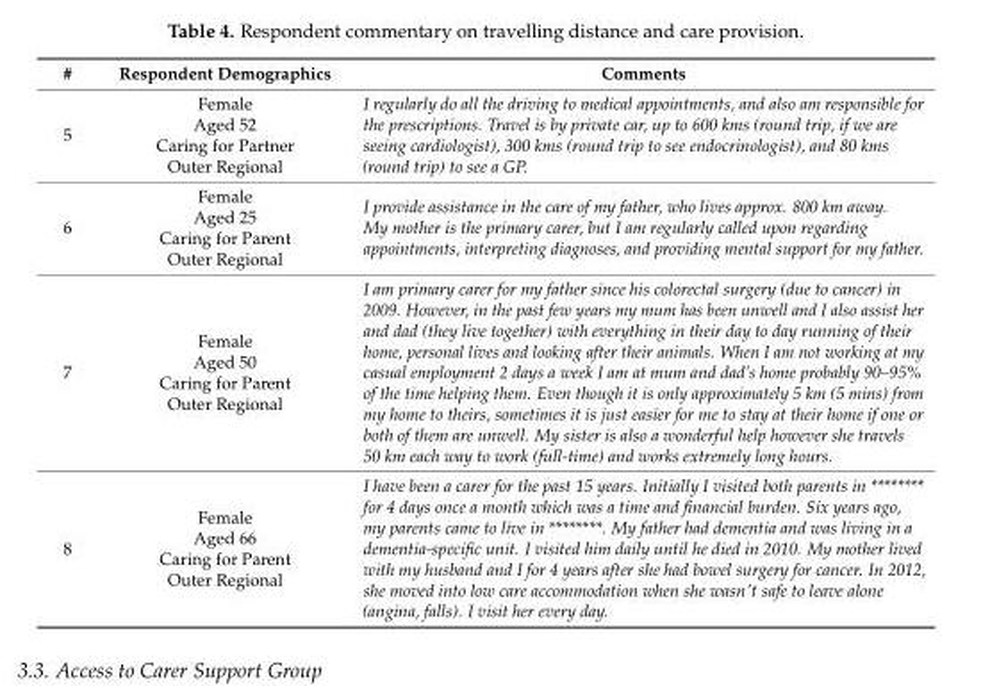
<table><thead><tr><td>#</td><td>Respondent Demographics</td><td>Comments</td></tr></thead><tbody><tr><td>5</td><td>Female Aged 52 Caring for Partner Outer Regional</td><td>I regularly do all the driving to medical appointments, and also am responsible for the prescriptions. Travel is by private car, up to 600 kms (round trip, if we are seeing cardiologist), 300 kms (round trip to see endocrinologist), and 80 kms (round trip) to see a GP.</td></tr><tr><td>6</td><td>Female Aged 25 Caring for Parent Outer Regional</td><td>I provide assistance in the care of my father, who lives approx. 800 km away. My mother is the primary carer, but I am regularly called upon regarding appointments, interpreting diagnoses, and providing mental support for my father.</td></tr><tr><td>7</td><td>Female Aged 50 Caring for Parent Outer Regional</td><td>I am primary carer for my father since his colorectal surgery (due to cancer) in 2009. However, in the past few years my mum has been unwell and I also assist her and dad (they live together) with everything in their day to day running of their home, personal lives and looking after their animals. When I am not working at my casual employment 2 days a week I am at mum and dad’s home probably 90–95% of the time helping them. Even though it is only approximately 5 km (5 mins) from my home to theirs, sometimes it is just easier for me to stay at their home if one or both of them are unwell. My sister is also a wonderful help however she travels 50 km each way to work (full-time) and works extremely long hours.</td></tr><tr><td>8</td><td>Female Aged 66 Caring for Parent Outer Regional</td><td>I have been a carer for the past 15 years. Initially I visited both parents in ******** for 4 days once a month which was a time and financial burden. Six years ago, my parents came to live in ********. My father had dementia and was living in a dementia-specific unit. I visited him daily until he died in 2010. My mother lived with my husband and I for 4 years after she had bowel surgery for cancer. In 2012, she moved into low care accommodation when she wasn&#x27;t safe to leave alone (angina, falls). I visit her every day.</td></tr></tbody></table>